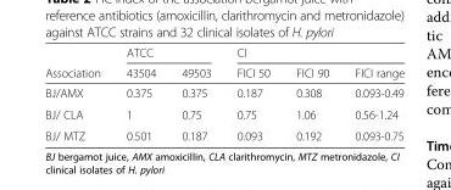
<table><thead><tr><td rowspan="2">Association</td><td colspan="2">ATCC</td><td colspan="3">CI</td></tr><tr><td>43504</td><td>49503</td><td>FICI 50</td><td>FICI 90</td><td>FICI range</td></tr></thead><tbody><tr><td>BJ/AMX</td><td>0.375</td><td>0.375</td><td>0.187</td><td>0.308</td><td>0.093-0.49</td></tr><tr><td>BJ/ CLA</td><td>1</td><td>0.75</td><td>0.75</td><td>1.06</td><td>0.56-1.24</td></tr><tr><td>BJ/ MTZ</td><td>0.501</td><td>0.187</td><td>0.093</td><td>0.192</td><td>0.093-0.75</td></tr></tbody></table>